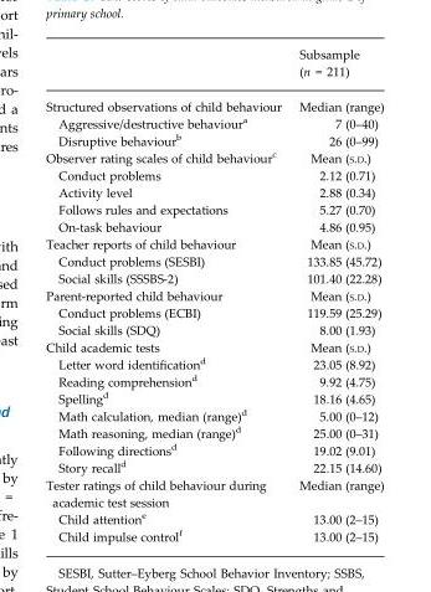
<table><thead><tr><td></td><td>Subsample (n = 211)</td></tr></thead><tbody><tr><td>Structured observations of child behaviour</td><td>Median (range)</td></tr><tr><td>Aggressive/destructive behaviour<sup>a</sup></td><td>7 (0–40)</td></tr><tr><td>Disruptive behaviour<sup>b</sup></td><td>26 (0–99)</td></tr><tr><td>Observer rating scales of child behaviour<sup>c</sup></td><td>Mean (S.D.)</td></tr><tr><td>Conduct problems</td><td>2.12 (0.71)</td></tr><tr><td>Activity level</td><td>2.88 (0.34)</td></tr><tr><td>Follows rules and expectations</td><td>5.27 (0.70)</td></tr><tr><td>On-task behaviour</td><td>4.86 (0.95)</td></tr><tr><td>Teacher reports of child behaviour</td><td>Mean (S.D.)</td></tr><tr><td>Conduct problems (SESBI)</td><td>133.85 (45.72)</td></tr><tr><td>Social skills (SSSBS-2)</td><td>101.40 (22.28)</td></tr><tr><td>Parent-reported child behaviour</td><td>Mean (S.D.)</td></tr><tr><td>Conduct problems (ECBI)</td><td>119.59 (25.29)</td></tr><tr><td>Social skills (SDQ)</td><td>8.00 (1.93)</td></tr><tr><td>Child academic tests</td><td>Mean (S.D.)</td></tr><tr><td>Letter word identification<sup>d</sup></td><td>23.05 (8.92)</td></tr><tr><td>Reading comprehension<sup>d</sup></td><td>9.92 (4.75)</td></tr><tr><td>Spelling<sup>d</sup></td><td>18.16 (4.65)</td></tr><tr><td>Math calculation, median (range)<sup>d</sup></td><td>5.00 (0–12)</td></tr><tr><td>Math reasoning, median (range)<sup>d</sup></td><td>25.00 (0–31)</td></tr><tr><td>Following directions<sup>d</sup></td><td>19.02 (9.01)</td></tr><tr><td>Story recall<sup>d</sup></td><td>22.15 (14.60)</td></tr><tr><td>Tester ratings of child behaviour during academic test session</td><td>Median (range)</td></tr><tr><td>Child attention<sup>e</sup></td><td>13.00 (2–15)</td></tr><tr><td>Child impulse control<sup>f</sup></td><td>13.00 (2–15)</td></tr></tbody></table>